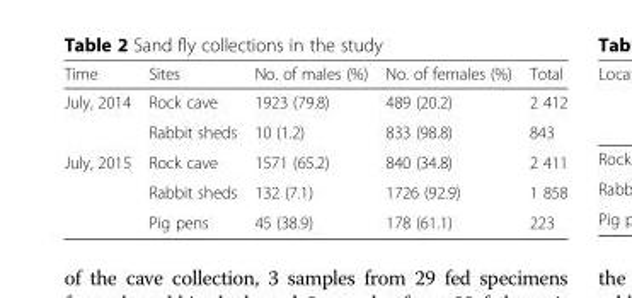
<table><thead><tr><td>Time</td><td>Sites</td><td>No. of males (%)</td><td>No. of females (%)</td><td>Total</td></tr></thead><tbody><tr><td rowspan="2">July, 2014</td><td>Rock cave</td><td>1923 (79.8)</td><td>489 (20.2)</td><td>2 412</td></tr><tr><td>Rabbit sheds</td><td>10 (1.2)</td><td>833 (98.8)</td><td>843</td></tr><tr><td rowspan="3">July, 2015</td><td>Rock cave</td><td>1571 (65.2)</td><td>840 (34.8)</td><td>2 411</td></tr><tr><td>Rabbit sheds</td><td>132 (7.1)</td><td>1726 (92.9)</td><td>1 858</td></tr><tr><td>Pig pens</td><td>45 (38.9)</td><td>178 (61.1)</td><td>223</td></tr></tbody></table>